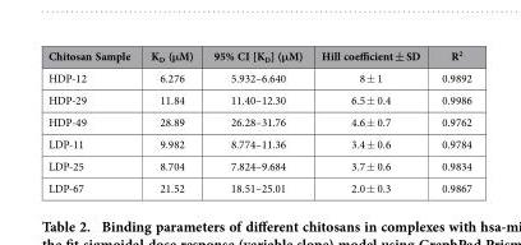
<table><thead><tr><td>Chitosan Sample</td><td>K<sub>D</sub> (μM)</td><td>95% CI [K<sub>D</sub>] (μM)</td><td>Hill coefficient ± SD</td><td>R<sup>2</sup></td></tr></thead><tbody><tr><td>HDP-12</td><td>6.276</td><td>5.932–6.640</td><td>8 ± 1</td><td>0.9892</td></tr><tr><td>HDP-29</td><td>11.84</td><td>11.40–12.30</td><td>6.5 ± 0.4</td><td>0.9986</td></tr><tr><td>HDP-49</td><td>28.89</td><td>26.28–31.76</td><td>4.6 ± 0.7</td><td>0.9762</td></tr><tr><td>LDP-11</td><td>9.982</td><td>8.774–11.36</td><td>3.4 ± 0.6</td><td>0.9784</td></tr><tr><td>LDP-25</td><td>8.704</td><td>7.824–9.684</td><td>3.7 ± 0.6</td><td>0.9834</td></tr><tr><td>LDP-67</td><td>21.52</td><td>18.51–25.01</td><td>2.0 ± 0.3</td><td>0.9867</td></tr></tbody></table>